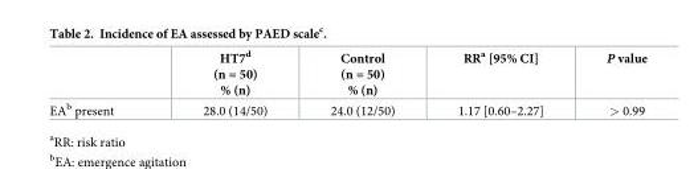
<table><thead><tr><td></td><td>HT7<sup>d</sup> (n = 50) % (n)</td><td>Control (n = 50) % (n)</td><td>RR<sup>a</sup> [95% CI]</td><td>P value</td></tr></thead><tbody><tr><td>EA<sup>b</sup> present</td><td>28.0 (14/50)</td><td>24.0 (12/50)</td><td>1.17 [0.60–2.27]</td><td>&gt; 0.99</td></tr></tbody></table>